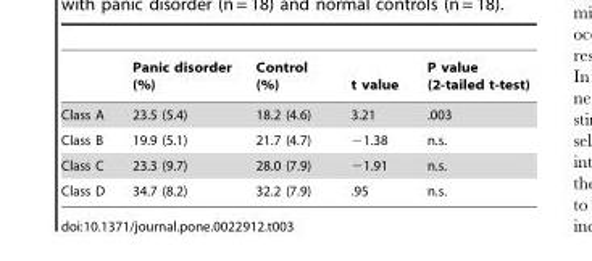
<table><thead><tr><td></td><td>Panic disorder (%)</td><td>Control (%)</td><td>t value</td><td>P value (2-tailed t-test)</td></tr></thead><tbody><tr><td>Class A</td><td>23.5 (5.4)</td><td>18.2 (4.6)</td><td>3.21</td><td>.003</td></tr><tr><td>Class B</td><td>19.9 (5.1)</td><td>21.7 (4.7)</td><td>−1.38</td><td>n.s.</td></tr><tr><td>Class C</td><td>23.3 (9.7)</td><td>28.0 (7.9)</td><td>−1.91</td><td>n.s.</td></tr><tr><td>Class D</td><td>34.7 (8.2)</td><td>32.2 (7.9)</td><td>.95</td><td>n.s.</td></tr></tbody></table>